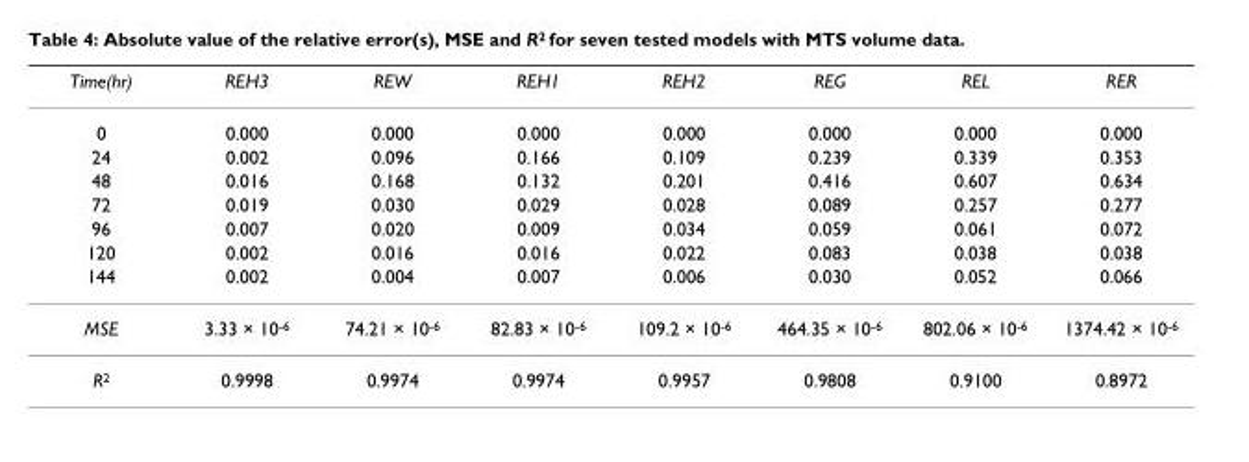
<table><thead><tr><td>Time(hr)</td><td>REH3</td><td>REW</td><td>REH1</td><td>REH2</td><td>REG</td><td>REL</td><td>RER</td></tr></thead><tbody><tr><td>0</td><td>0.000</td><td>0.000</td><td>0.000</td><td>0.000</td><td>0.000</td><td>0.000</td><td>0.000</td></tr><tr><td>24</td><td>0.002</td><td>0.096</td><td>0.166</td><td>0.109</td><td>0.239</td><td>0.339</td><td>0.353</td></tr><tr><td>48</td><td>0.016</td><td>0.168</td><td>0.132</td><td>0.201</td><td>0.416</td><td>0.607</td><td>0.634</td></tr><tr><td>72</td><td>0.019</td><td>0.030</td><td>0.029</td><td>0.028</td><td>0.089</td><td>0.257</td><td>0.277</td></tr><tr><td>96</td><td>0.007</td><td>0.020</td><td>0.009</td><td>0.034</td><td>0.059</td><td>0.061</td><td>0.072</td></tr><tr><td>120</td><td>0.002</td><td>0.016</td><td>0.016</td><td>0.022</td><td>0.083</td><td>0.038</td><td>0.038</td></tr><tr><td>144</td><td>0.002</td><td>0.004</td><td>0.007</td><td>0.006</td><td>0.030</td><td>0.052</td><td>0.066</td></tr><tr><td>MSE</td><td>3.33 × 10<sup>-6</sup></td><td>74.21 × 10<sup>-6</sup></td><td>82.83 × 10<sup>-6</sup></td><td>109.2 × 10<sup>-6</sup></td><td>464.35 × 10<sup>-6</sup></td><td>802.06 × 10<sup>-6</sup></td><td>1374.42 × 10<sup>-6</sup></td></tr><tr><td>R<sup>2</sup></td><td>0.9998</td><td>0.9974</td><td>0.9974</td><td>0.9957</td><td>0.9808</td><td>0.9100</td><td>0.8972</td></tr></tbody></table>